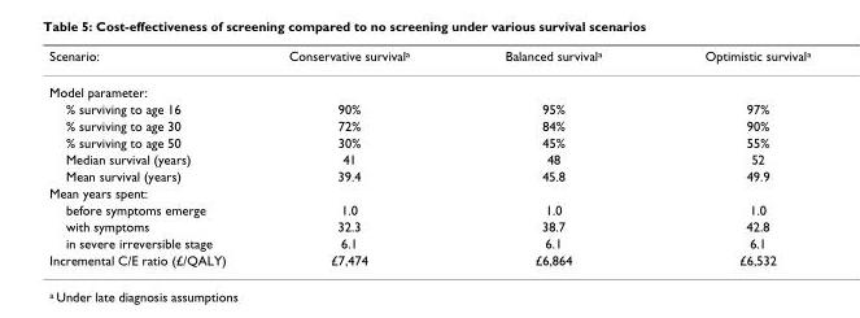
<table><thead><tr><td>Scenario:</td><td>Conservative survival<sup>a</sup></td><td>Balanced survival<sup>a</sup></td><td>Optimistic survival<sup>a</sup></td></tr></thead><tbody><tr><td colspan="4">Model parameter:</td></tr><tr><td>% surviving to age 16</td><td>90%</td><td>95%</td><td>97%</td></tr><tr><td>% surviving to age 30</td><td>72%</td><td>84%</td><td>90%</td></tr><tr><td>% surviving to age 50</td><td>30%</td><td>45%</td><td>55%</td></tr><tr><td>Median survival (years)</td><td>41</td><td>48</td><td>52</td></tr><tr><td>Mean survival (years)</td><td>39.4</td><td>45.8</td><td>49.9</td></tr><tr><td colspan="4">Mean years spent:</td></tr><tr><td>before symptoms emerge</td><td>1.0</td><td>1.0</td><td>1.0</td></tr><tr><td>with symptoms</td><td>32.3</td><td>38.7</td><td>42.8</td></tr><tr><td>in severe irreversible stage</td><td>6.1</td><td>6.1</td><td>6.1</td></tr><tr><td>Incremental C/E ratio (£/QALY)</td><td>£7,474</td><td>£6,864</td><td>£6,532</td></tr></tbody></table>